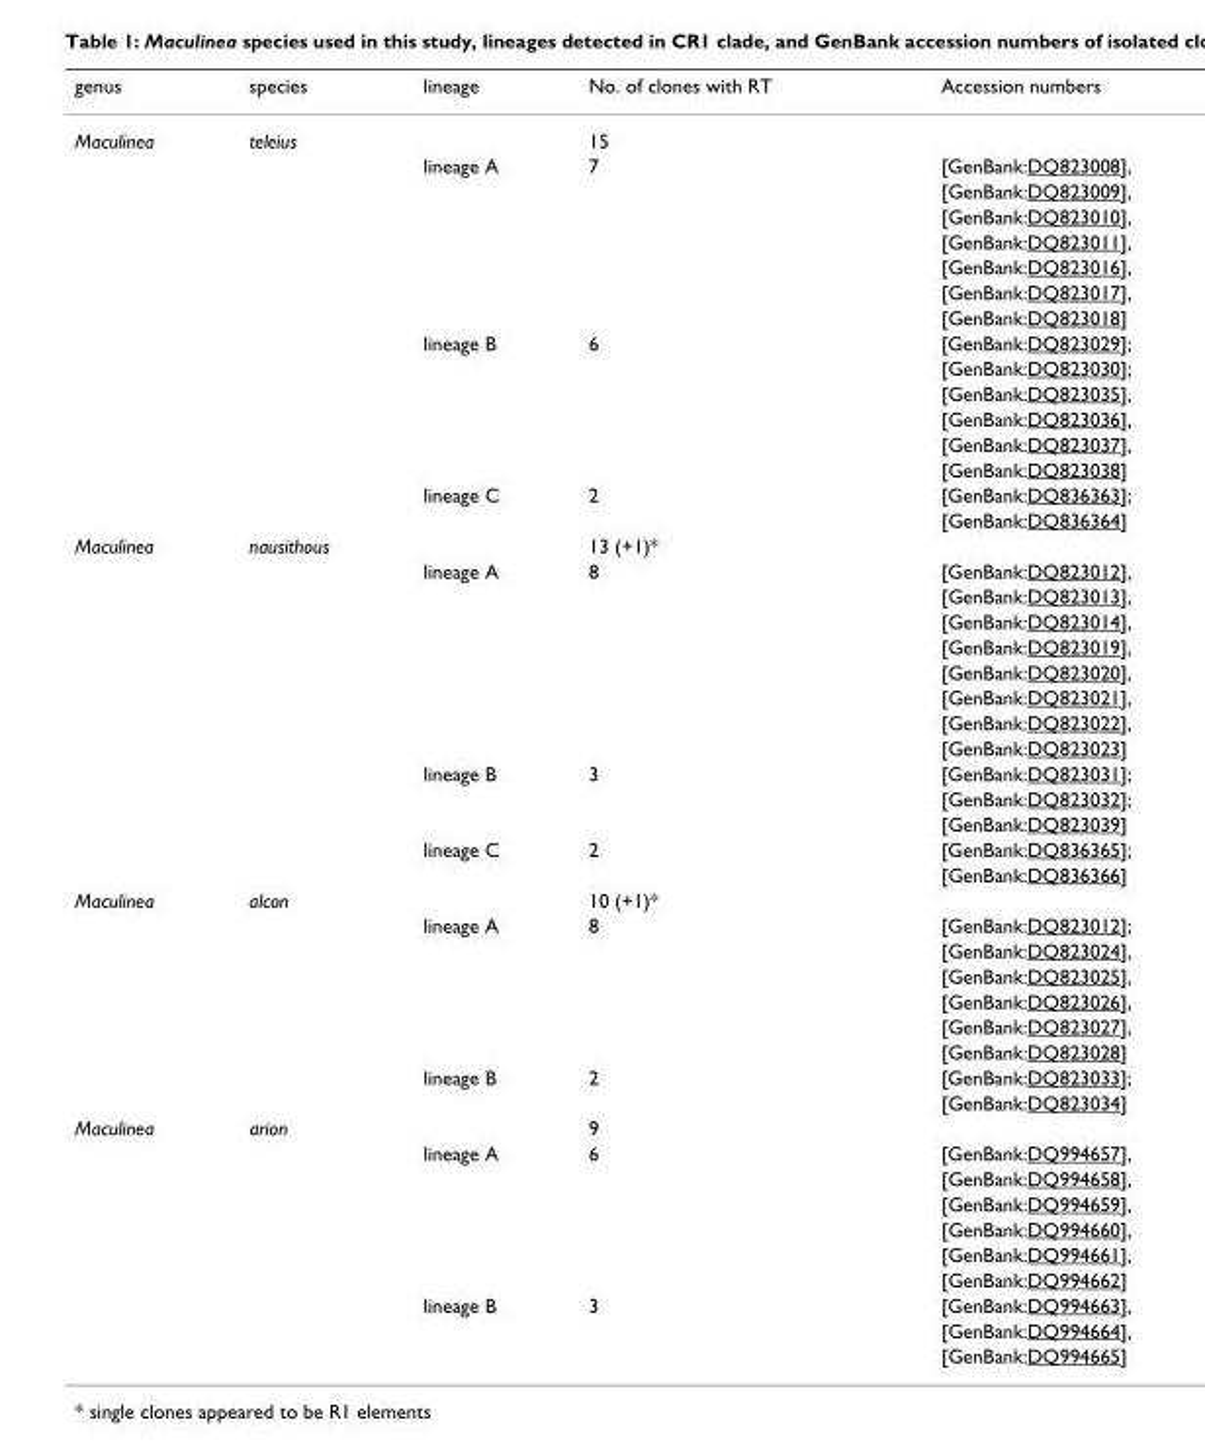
<table><thead><tr><td>genus</td><td>species</td><td>lineage</td><td>No. of clones with RT</td><td>Accession numbers</td></tr></thead><tbody><tr><td rowspan="16">Maculinea</td><td>teleius</td><td></td><td>15</td><td></td></tr><tr><td></td><td>lineage A</td><td>7</td><td>[GenBank:DQ823008],</td></tr><tr><td></td><td></td><td></td><td>[GenBank:DQ823009],</td></tr><tr><td></td><td></td><td></td><td>[GenBank:DQ823010],</td></tr><tr><td></td><td></td><td></td><td>[GenBank:DQ823011],</td></tr><tr><td></td><td></td><td></td><td>[GenBank:DQ823016],</td></tr><tr><td></td><td></td><td></td><td>[GenBank:DQ823017],</td></tr><tr><td></td><td></td><td></td><td>[GenBank:DQ823018]</td></tr><tr><td></td><td>lineage B</td><td>6</td><td>[GenBank:DQ823029];</td></tr><tr><td></td><td></td><td></td><td>[GenBank:DQ823030];</td></tr><tr><td></td><td></td><td></td><td>[GenBank:DQ823035],</td></tr><tr><td></td><td></td><td></td><td>[GenBank:DQ823036],</td></tr><tr><td></td><td></td><td></td><td>[GenBank:DQ823037],</td></tr><tr><td></td><td></td><td></td><td>[GenBank:DQ823038]</td></tr><tr><td></td><td>lineage C</td><td>2</td><td>[GenBank:DQ836363];</td></tr><tr><td></td><td></td><td></td><td>[GenBank:DQ836364]</td></tr><tr><td rowspan="14">Maculinea</td><td>nausithous</td><td></td><td>13 (+1)*</td><td></td></tr><tr><td></td><td>lineage A</td><td>8</td><td>[GenBank:DQ823012],</td></tr><tr><td></td><td></td><td></td><td>[GenBank:DQ823013],</td></tr><tr><td></td><td></td><td></td><td>[GenBank:DQ823014],</td></tr><tr><td></td><td></td><td></td><td>[GenBank:DQ823019],</td></tr><tr><td></td><td></td><td></td><td>[GenBank:DQ823020],</td></tr><tr><td></td><td></td><td></td><td>[GenBank:DQ823021],</td></tr><tr><td></td><td></td><td></td><td>[GenBank:DQ823022],</td></tr><tr><td></td><td></td><td></td><td>[GenBank:DQ823023]</td></tr><tr><td></td><td>lineage B</td><td>3</td><td>[GenBank:DQ823031];</td></tr><tr><td></td><td></td><td></td><td>[GenBank:DQ823032];</td></tr><tr><td></td><td></td><td></td><td>[GenBank:DQ823039]</td></tr><tr><td></td><td>lineage C</td><td>2</td><td>[GenBank:DQ836365];</td></tr><tr><td></td><td></td><td></td><td>[GenBank:DQ836366]</td></tr><tr><td rowspan="9">Maculinea</td><td>alcon</td><td></td><td>10 (+1)*</td><td></td></tr><tr><td></td><td>lineage A</td><td>8</td><td>[GenBank:DQ823012];</td></tr><tr><td></td><td></td><td></td><td>[GenBank:DQ823024],</td></tr><tr><td></td><td></td><td></td><td>[GenBank:DQ823025],</td></tr><tr><td></td><td></td><td></td><td>[GenBank:DQ823026],</td></tr><tr><td></td><td></td><td></td><td>[GenBank:DQ823027],</td></tr><tr><td></td><td></td><td></td><td>[GenBank:DQ823028]</td></tr><tr><td></td><td>lineage B</td><td>2</td><td>[GenBank:DQ823033];</td></tr><tr><td></td><td></td><td></td><td>[GenBank:DQ823034]</td></tr><tr><td rowspan="10">Maculinea</td><td>arion</td><td></td><td>9</td><td></td></tr><tr><td></td><td>lineage A</td><td>6</td><td>[GenBank:DQ994657],</td></tr><tr><td></td><td></td><td></td><td>[GenBank:DQ994658],</td></tr><tr><td></td><td></td><td></td><td>[GenBank:DQ994659],</td></tr><tr><td></td><td></td><td></td><td>[GenBank:DQ994660],</td></tr><tr><td></td><td></td><td></td><td>[GenBank:DQ994661],</td></tr><tr><td></td><td></td><td></td><td>[GenBank:DQ994662]</td></tr><tr><td></td><td>lineage B</td><td>3</td><td>[GenBank:DQ994663],</td></tr><tr><td></td><td></td><td></td><td>[GenBank:DQ994664],</td></tr><tr><td></td><td></td><td></td><td>[GenBank:DQ994665]</td></tr></tbody></table>